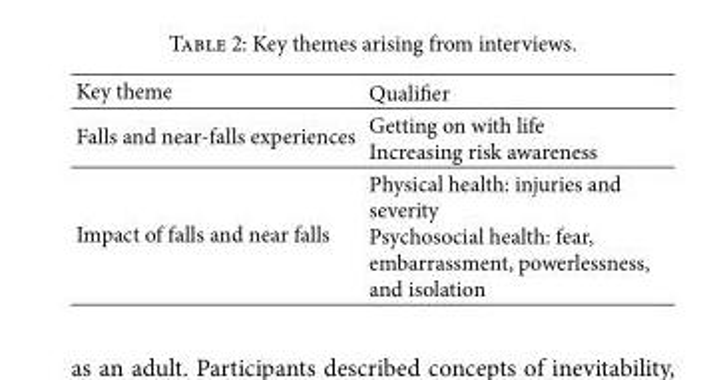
<table><thead><tr><td>Key theme</td><td>Qualifier</td></tr></thead><tbody><tr><td>Falls and near-falls experiences</td><td>Getting on with life Increasing risk awareness</td></tr><tr><td>Impact of falls and near falls</td><td>Physical health: injuries and severity Psychosocial health: fear, embarrassment, powerlessness, and isolation</td></tr></tbody></table>